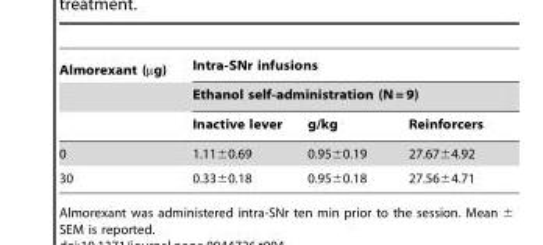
<table><thead><tr><td rowspan="3">Almorexant (µg)</td><td rowspan="2" colspan="3">Intra-SNr infusions Ethanol self-administration (N = 9)</td></tr><tr></tr><tr><td>Inactive lever</td><td>g/kg</td><td>Reinforcers</td></tr></thead><tbody><tr><td>0</td><td>1.11±0.69</td><td>0.95±0.19</td><td>27.67±4.92</td></tr><tr><td>30</td><td>0.33±0.18</td><td>0.95±0.18</td><td>27.56±4.71</td></tr></tbody></table>